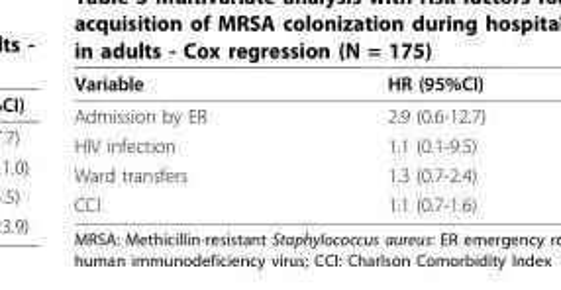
<table><thead><tr><td>Variable</td><td>HR (95%CI)</td></tr></thead><tbody><tr><td>Admission by ER</td><td>2.9 (0.6-12.7)</td></tr><tr><td>HIV infection</td><td>1.1 (0.1-9.5)</td></tr><tr><td>Ward transfers</td><td>1.3 (0.7-2.4)</td></tr><tr><td>CCI</td><td>1.1 (0.7-1.6)</td></tr></tbody></table>